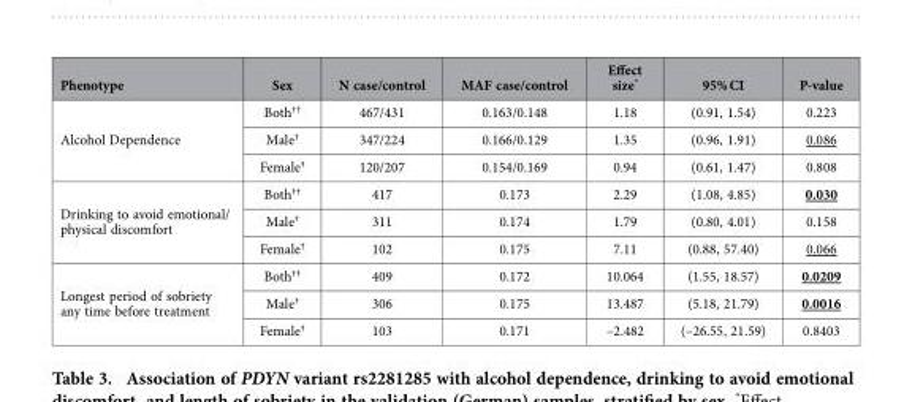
<table><thead><tr><td>Phenotype</td><td>Sex</td><td>N case/control</td><td>MAF case/control</td><td>Effect size*</td><td>95% CI</td><td>P-value</td></tr></thead><tbody><tr><td rowspan="3">Alcohol Dependence</td><td>Both††</td><td>467/431</td><td>0.163/0.148</td><td>1.18</td><td>(0.91, 1.54)</td><td>0.223</td></tr><tr><td>Male†</td><td>347/224</td><td>0.166/0.129</td><td>1.35</td><td>(0.96, 1.91)</td><td>0.086</td></tr><tr><td>Female†</td><td>120/207</td><td>0.154/0.169</td><td>0.94</td><td>(0.61, 1.47)</td><td>0.808</td></tr><tr><td rowspan="3">Drinking to avoid emotional/ physical discomfort</td><td>Both††</td><td>417</td><td>0.173</td><td>2.29</td><td>(1.08, 4.85)</td><td>0.030</td></tr><tr><td>Male†</td><td>311</td><td>0.174</td><td>1.79</td><td>(0.80, 4.01)</td><td>0.158</td></tr><tr><td>Female†</td><td>102</td><td>0.175</td><td>7.11</td><td>(0.88, 57.40)</td><td>0.066</td></tr><tr><td rowspan="3">Longest period of sobriety any time before treatment</td><td>Both††</td><td>409</td><td>0.172</td><td>10.064</td><td>(1.55, 18.57)</td><td>0.0209</td></tr><tr><td>Male†</td><td>306</td><td>0.175</td><td>13.487</td><td>(5.18, 21.79)</td><td>0.0016</td></tr><tr><td>Female†</td><td>103</td><td>0.171</td><td>–2.482</td><td>(–26.55, 21.59)</td><td>0.8403</td></tr></tbody></table>